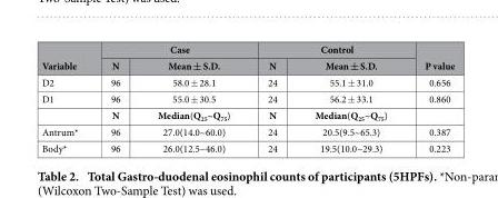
<table><thead><tr><td rowspan="2">Variable</td><td colspan="2">Case</td><td colspan="2">Control</td><td rowspan="2">P value</td></tr><tr><td>N</td><td>Mean ± S.D.</td><td>N</td><td>Mean ± S.D.</td></tr></thead><tbody><tr><td>D2</td><td>96</td><td>58.0 ± 28.1</td><td>24</td><td>55.1 ± 31.0</td><td>0.656</td></tr><tr><td rowspan="2">D1</td><td>96</td><td>55.0 ± 30.5</td><td>24</td><td>56.2 ± 33.1</td><td>0.860</td></tr><tr><td>N</td><td>Median(Q<sub>25</sub>~Q<sub>75</sub>)</td><td>N</td><td>Median(Q<sub>25</sub>~Q<sub>75</sub>)</td><td></td></tr><tr><td>Antrum*</td><td>96</td><td>27.0(14.0~60.0)</td><td>24</td><td>20.5(9.5~65.3)</td><td>0.387</td></tr><tr><td>Body*</td><td>96</td><td>26.0(12.5~46.0)</td><td>24</td><td>19.5(10.0~29.3)</td><td>0.223</td></tr></tbody></table>